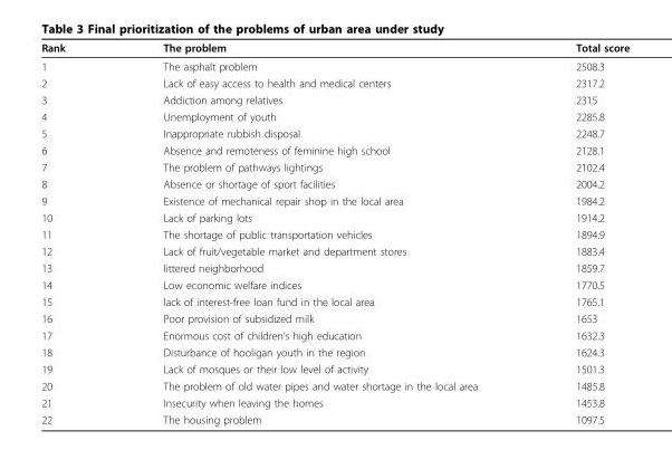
<table><thead><tr><td>Rank</td><td>The problem</td><td>Total score</td></tr></thead><tbody><tr><td>1</td><td>The asphalt problem</td><td>2508.3</td></tr><tr><td>2</td><td>Lack of easy access to health and medical centers</td><td>2317.2</td></tr><tr><td>3</td><td>Addiction among relatives</td><td>2315</td></tr><tr><td>4</td><td>Unemployment of youth</td><td>2285.8</td></tr><tr><td>5</td><td>Inappropriate rubbish disposal</td><td>2248.7</td></tr><tr><td>6</td><td>Absence and remoteness of feminine high school</td><td>2128.1</td></tr><tr><td>7</td><td>The problem of pathways lightings</td><td>2102.4</td></tr><tr><td>8</td><td>Absence or shortage of sport facilities</td><td>2004.2</td></tr><tr><td>9</td><td>Existence of mechanical repair shop in the local area</td><td>1984.2</td></tr><tr><td>10</td><td>Lack of parking lots</td><td>1914.2</td></tr><tr><td>11</td><td>The shortage of public transportation vehicles</td><td>1894.9</td></tr><tr><td>12</td><td>Lack of fruit/vegetable market and department stores</td><td>1883.4</td></tr><tr><td>13</td><td>littered neighborhood</td><td>1859.7</td></tr><tr><td>14</td><td>Low economic welfare indices</td><td>1770.5</td></tr><tr><td>15</td><td>lack of interest-free loan fund in the local area</td><td>1765.1</td></tr><tr><td>16</td><td>Poor provision of subsidized milk</td><td>1653</td></tr><tr><td>17</td><td>Enormous cost of children’s high education</td><td>1632.3</td></tr><tr><td>18</td><td>Disturbance of hooligan youth in the region</td><td>1624.3</td></tr><tr><td>19</td><td>Lack of mosques or their low level of activity</td><td>1501.3</td></tr><tr><td>20</td><td>The problem of old water pipes and water shortage in the local area</td><td>1485.8</td></tr><tr><td>21</td><td>Insecurity when leaving the homes</td><td>1453.8</td></tr><tr><td>22</td><td>The housing problem</td><td>1097.5</td></tr></tbody></table>